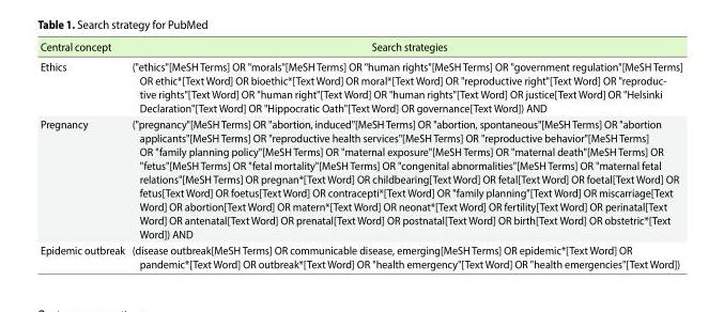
<table><thead><tr><td>Central concept</td><td>Search strategies</td></tr></thead><tbody><tr><td>Ethics</td><td>(&quot;ethics&quot;[MeSH Terms] OR &quot;morals&quot;[MeSH Terms] OR &quot;human rights&quot;[MeSH Terms] OR &quot;government regulation&quot;[MeSH Terms] OR ethic*[Text Word] OR bioethic*[Text Word] OR moral*[Text Word] OR &quot;reproductive right&quot;[Text Word] OR &quot;reproduc- tive rights&quot;[Text Word] OR &quot;human right&quot;[Text Word] OR &quot;human rights&quot;[Text Word] OR justice[Text Word] OR &quot;Helsinki Declaration&quot;[Text Word] OR &quot;Hippocratic Oath&quot;[Text Word] OR governance[Text Word]) AND</td></tr><tr><td>Pregnancy</td><td>(&quot;pregnancy&quot;[MeSH Terms] OR &quot;abortion, induced&quot;[MeSH Terms] OR &quot;abortion, spontaneous&quot;[MeSH Terms] OR &quot;abortion applicants&quot;[MeSH Terms] OR &quot;reproductive health services&quot;[MeSH Terms] OR &quot;reproductive behavior&quot;[MeSH Terms] OR &quot;family planning policy&quot;[MeSH Terms] OR &quot;maternal exposure&quot;[MeSH Terms] OR &quot;maternal death&quot;[MeSH Terms] OR &quot;fetus&quot;[MeSH Terms] OR &quot;fetal mortality&quot;[MeSH Terms] OR &quot;congenital abnormalities&quot;[MeSH Terms] OR &quot;maternal fetal relations&quot;[MeSH Terms] OR pregnan*[Text Word] OR childbearing[Text Word] OR fetal[Text Word] OR foetal[Text Word] OR fetus[Text Word] OR foetus[Text Word] OR contracepti*[Text Word] OR &quot;family planning&quot;[Text Word] OR miscarriage[Text Word] OR abortion[Text Word] OR matern*[Text Word] OR neonat*[Text Word] OR fertility[Text Word] OR perinatal[Text Word] OR antenatal[Text Word] OR prenatal[Text Word] OR postnatal[Text Word] OR birth[Text Word] OR obstetric*[Text Word]) AND</td></tr><tr><td>Epidemic outbreak</td><td>(disease outbreak[MeSH Terms] OR communicable disease, emerging[MeSH Terms] OR epidemic*[Text Word] OR pandemic*[Text Word] OR outbreak*[Text Word] OR &quot;health emergency&quot;[Text Word] OR &quot;health emergencies&quot;[Text Word])</td></tr></tbody></table>